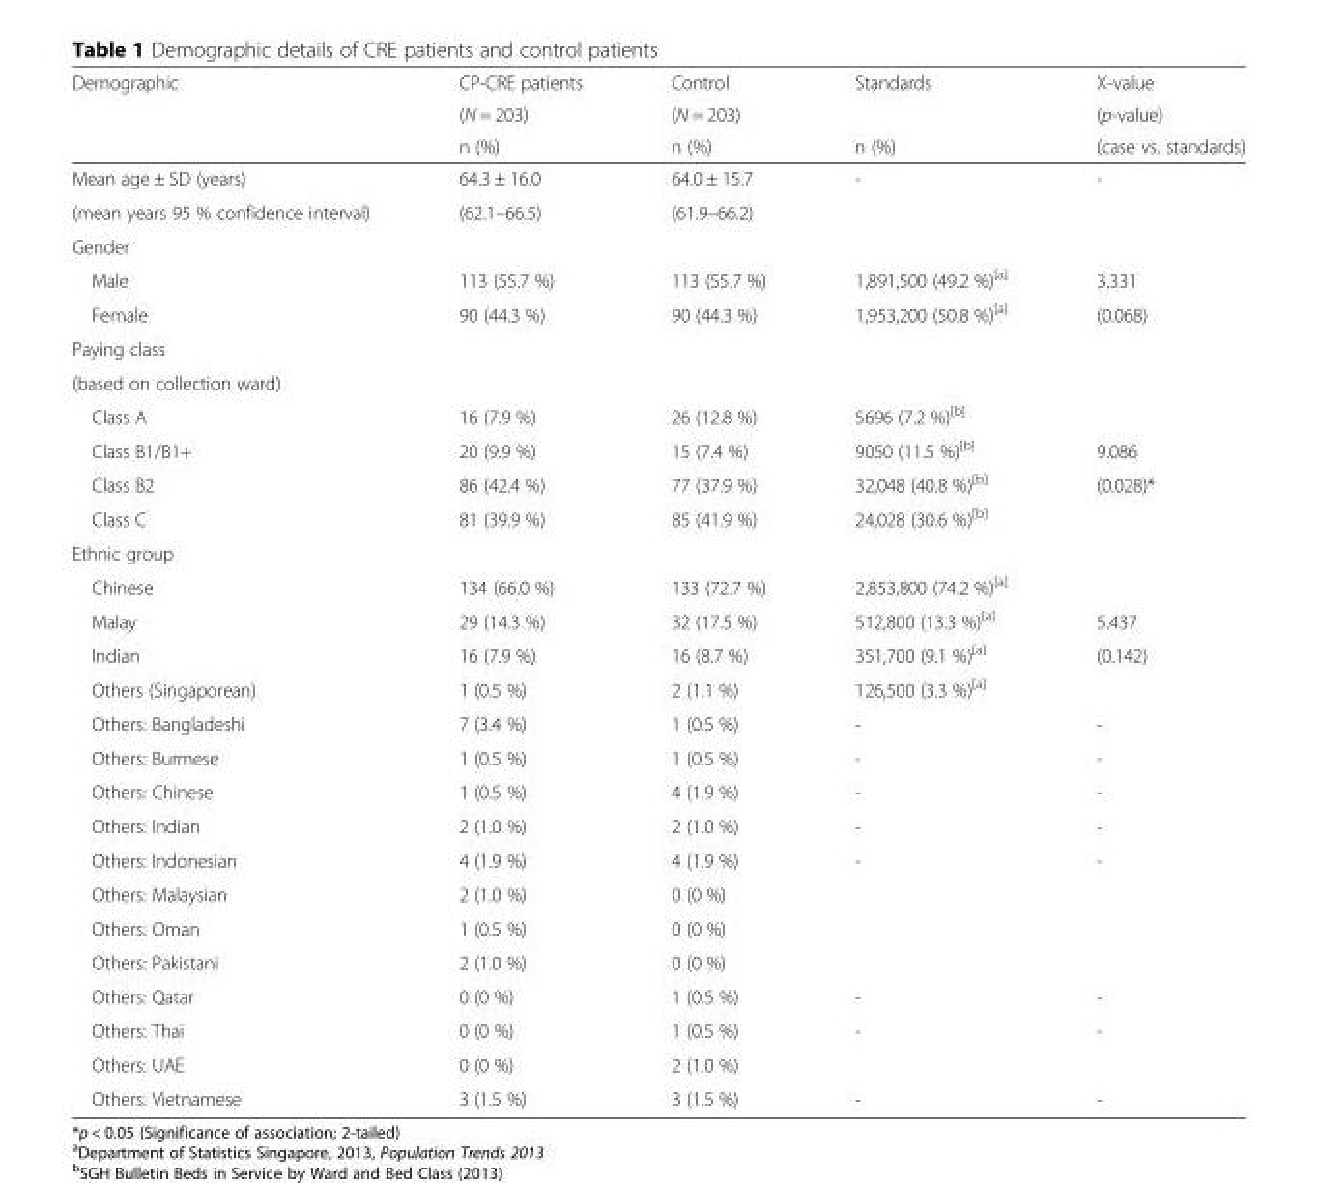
<table><thead><tr><td rowspan="3">Demographic</td><td rowspan="3">CP-CRE patients (N = 203) n (%)</td><td rowspan="3">Control (N = 203) n (%)</td><td rowspan="3">Standards n (%)</td><td rowspan="3">X-value (p-value) (case vs. standards)</td></tr><tr></tr><tr></tr></thead><tbody><tr><td>Mean age ± SD (years)</td><td>64.3 ± 16.0</td><td>64.0 ± 15.7</td><td rowspan="2">-</td><td rowspan="2">-</td></tr><tr><td>(mean years 95 % confidence interval)</td><td>(62.1–66.5)</td><td>(61.9–66.2)</td></tr><tr><td colspan="5">Gender</td></tr><tr><td>Male</td><td>113 (55.7 %)</td><td>113 (55.7 %)</td><td>1,891,500 (49.2 %)<sup>[a]</sup></td><td>3.331</td></tr><tr><td>Female</td><td>90 (44.3 %)</td><td>90 (44.3 %)</td><td>1,953,200 (50.8 %)<sup>[a]</sup></td><td>(0.068)</td></tr><tr><td colspan="5">Paying class</td></tr><tr><td colspan="5">(based on collection ward)</td></tr><tr><td>Class A</td><td>16 (7.9 %)</td><td>26 (12.8 %)</td><td>5696 (7.2 %)<sup>[b]</sup></td><td></td></tr><tr><td>Class B1/B1+</td><td>20 (9.9 %)</td><td>15 (7.4 %)</td><td>9050 (11.5 %)<sup>[b]</sup></td><td>9.086</td></tr><tr><td>Class B2</td><td>86 (42.4 %)</td><td>77 (37.9 %)</td><td>32,048 (40.8 %)<sup>[b]</sup></td><td>(0.028)*</td></tr><tr><td>Class C</td><td>81 (39.9 %)</td><td>85 (41.9 %)</td><td>24,028 (30.6 %)<sup>[b]</sup></td><td></td></tr><tr><td colspan="5">Ethnic group</td></tr><tr><td>Chinese</td><td>134 (66.0 %)</td><td>133 (72.7 %)</td><td>2,853,800 (74.2 %)<sup>[a]</sup></td><td></td></tr><tr><td>Malay</td><td>29 (14.3 %)</td><td>32 (17.5 %)</td><td>512,800 (13.3 %)<sup>[a]</sup></td><td>5.437</td></tr><tr><td>Indian</td><td>16 (7.9 %)</td><td>16 (8.7 %)</td><td>351,700 (9.1 %)<sup>[a]</sup></td><td>(0.142)</td></tr><tr><td>Others (Singaporean)</td><td>1 (0.5 %)</td><td>2 (1.1 %)</td><td>126,500 (3.3 %)<sup>[a]</sup></td><td></td></tr><tr><td>Others: Bangladeshi</td><td>7 (3.4 %)</td><td>1 (0.5 %)</td><td>-</td><td>-</td></tr><tr><td>Others: Burmese</td><td>1 (0.5 %)</td><td>1 (0.5 %)</td><td>-</td><td>-</td></tr><tr><td>Others: Chinese</td><td>1 (0.5 %)</td><td>4 (1.9 %)</td><td>-</td><td>-</td></tr><tr><td>Others: Indian</td><td>2 (1.0 %)</td><td>2 (1.0 %)</td><td>-</td><td>-</td></tr><tr><td>Others: Indonesian</td><td>4 (1.9 %)</td><td>4 (1.9 %)</td><td>-</td><td>-</td></tr><tr><td>Others: Malaysian</td><td>2 (1.0 %)</td><td>0 (0 %)</td><td></td><td></td></tr><tr><td>Others: Oman</td><td>1 (0.5 %)</td><td>0 (0 %)</td><td></td><td></td></tr><tr><td>Others: Pakistani</td><td>2 (1.0 %)</td><td>0 (0 %)</td><td></td><td></td></tr><tr><td>Others: Qatar</td><td>0 (0 %)</td><td>1 (0.5 %)</td><td>-</td><td>-</td></tr><tr><td>Others: Thai</td><td>0 (0 %)</td><td>1 (0.5 %)</td><td>-</td><td>-</td></tr><tr><td>Others: UAE</td><td>0 (0 %)</td><td>2 (1.0 %)</td><td></td><td></td></tr><tr><td>Others: Vietnamese</td><td>3 (1.5 %)</td><td>3 (1.5 %)</td><td>-</td><td>-</td></tr></tbody></table>